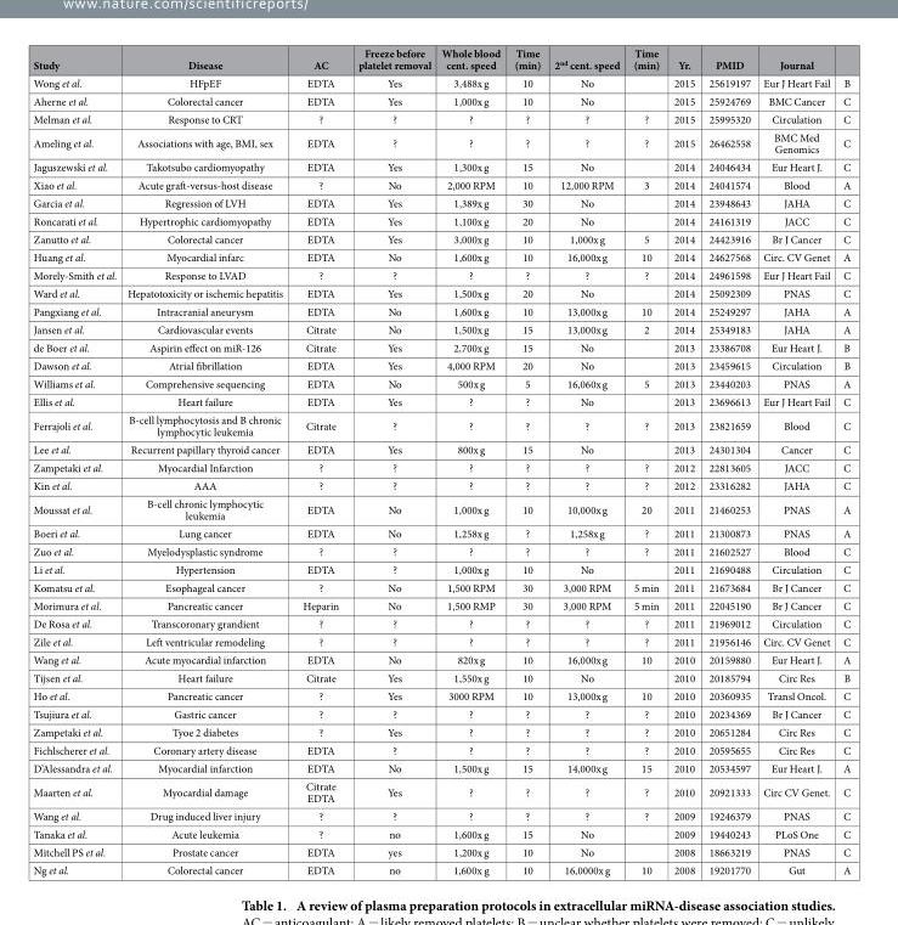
<table><thead><tr><td>Study</td><td>Disease</td><td>AC</td><td>Freeze before platelet removal</td><td>Whole blood cent. speed</td><td>Time (min)</td><td>2<sup>nd</sup> cent. speed</td><td>Time (min)</td><td>Yr.</td><td>PMID</td><td>Journal</td><td></td></tr></thead><tbody><tr><td>Wong et al.</td><td>HFpEF</td><td>EDTA</td><td>Yes</td><td>3,488x g</td><td>10</td><td>No</td><td></td><td>2015</td><td>25619197</td><td>Eur J Heart Fail</td><td>B</td></tr><tr><td>Aherne et al.</td><td>Colorectal cancer</td><td>EDTA</td><td>Yes</td><td>1,000x g</td><td>10</td><td>No</td><td></td><td>2015</td><td>25924769</td><td>BMC Cancer</td><td>C</td></tr><tr><td>Melman et al.</td><td>Response to CRT</td><td>?</td><td>?</td><td>?</td><td>?</td><td>?</td><td>?</td><td>2015</td><td>25995320</td><td>Circulation</td><td>C</td></tr><tr><td>Ameling et al.</td><td>Associations with age, BMI, sex</td><td>EDTA</td><td>?</td><td>?</td><td>?</td><td>?</td><td>?</td><td>2015</td><td>26462558</td><td>BMC Med Genomics</td><td>C</td></tr><tr><td>Jaguszewski et al.</td><td>Takotsubo cardiomyopathy</td><td>EDTA</td><td>Yes</td><td>1,300x g</td><td>15</td><td>No</td><td></td><td>2014</td><td>24046434</td><td>Eur Heart J.</td><td>C</td></tr><tr><td>Xiao et al.</td><td>Acute graft-versus-host disease</td><td>?</td><td>No</td><td>2,000 RPM</td><td>10</td><td>12,000 RPM</td><td>3</td><td>2014</td><td>24041574</td><td>Blood</td><td>A</td></tr><tr><td>Garcia et al.</td><td>Regression of LVH</td><td>EDTA</td><td>Yes</td><td>1,389x g</td><td>30</td><td>No</td><td></td><td>2014</td><td>23948643</td><td>JAHA</td><td>C</td></tr><tr><td>Roncarati et al.</td><td>Hypertrophic cardiomyopathy</td><td>EDTA</td><td>Yes</td><td>1,100x g</td><td>20</td><td>No</td><td></td><td>2014</td><td>24161319</td><td>JACC</td><td>C</td></tr><tr><td>Zanutto et al.</td><td>Colorectal cancer</td><td>EDTA</td><td>Yes</td><td>3,000x g</td><td>10</td><td>1,000x g</td><td>5</td><td>2014</td><td>24423916</td><td>Br J Cancer</td><td>C</td></tr><tr><td>Huang et al.</td><td>Myocardial infarc</td><td>EDTA</td><td>No</td><td>1,600x g</td><td>10</td><td>16,000x g</td><td>10</td><td>2014</td><td>24627568</td><td>Circ. CV Genet</td><td>A</td></tr><tr><td>Morely-Smith et al.</td><td>Response to LVAD</td><td>?</td><td>?</td><td>?</td><td>?</td><td>?</td><td>?</td><td>2014</td><td>24961598</td><td>Eur J Heart Fail</td><td>C</td></tr><tr><td>Ward et al.</td><td>Hepatotoxicity or ischemic hepatitis</td><td>EDTA</td><td>Yes</td><td>1,500x g</td><td>20</td><td>No</td><td></td><td>2014</td><td>25092309</td><td>PNAS</td><td>C</td></tr><tr><td>Pangxiang et al.</td><td>Intracranial aneurysm</td><td>EDTA</td><td>No</td><td>1,600x g</td><td>10</td><td>13,000x g</td><td>10</td><td>2014</td><td>25249297</td><td>JAHA</td><td>A</td></tr><tr><td>Jansen et al.</td><td>Cardiovascular events</td><td>Citrate</td><td>No</td><td>1,500x g</td><td>15</td><td>13,000x g</td><td>2</td><td>2014</td><td>25349183</td><td>JAHA</td><td>A</td></tr><tr><td>de Boer et al.</td><td>Aspirin effect on miR-126</td><td>Citrate</td><td>Yes</td><td>2,700x g</td><td>15</td><td>No</td><td></td><td>2013</td><td>23386708</td><td>Eur Heart J.</td><td>B</td></tr><tr><td>Dawson et al.</td><td>Atrial fibrillation</td><td>EDTA</td><td>Yes</td><td>4,000 RPM</td><td>20</td><td>No</td><td></td><td>2013</td><td>23459615</td><td>Circulation</td><td>B</td></tr><tr><td>Williams et al.</td><td>Comprehensive sequencing</td><td>EDTA</td><td>No</td><td>500x g</td><td>5</td><td>16,060x g</td><td>5</td><td>2013</td><td>23440203</td><td>PNAS</td><td>A</td></tr><tr><td>Ellis et al.</td><td>Heart failure</td><td>EDTA</td><td>Yes</td><td>?</td><td>?</td><td>No</td><td></td><td>2013</td><td>23696613</td><td>Eur J Heart Fail</td><td>C</td></tr><tr><td>Ferrajoli et al.</td><td>B-cell lymphocytosis and B chronic lymphocytic leukemia</td><td>Citrate</td><td>?</td><td>?</td><td>?</td><td>?</td><td>?</td><td>2013</td><td>23821659</td><td>Blood</td><td>C</td></tr><tr><td>Lee et al.</td><td>Recurrent papillary thyroid cancer</td><td>EDTA</td><td>Yes</td><td>800x g</td><td>15</td><td>No</td><td></td><td>2013</td><td>24301304</td><td>Cancer</td><td>C</td></tr><tr><td>Zampetaki et al.</td><td>Myocardial Infarction</td><td>?</td><td>?</td><td>?</td><td>?</td><td>?</td><td>?</td><td>2012</td><td>22813605</td><td>JACC</td><td>C</td></tr><tr><td>Kin et al.</td><td>AAA</td><td>?</td><td>?</td><td>?</td><td>?</td><td>?</td><td>?</td><td>2012</td><td>23316282</td><td>JAHA</td><td>C</td></tr><tr><td>Moussat et al.</td><td>B-cell chronic lymphocytic leukemia</td><td>EDTA</td><td>No</td><td>1,000x g</td><td>10</td><td>10,000x g</td><td>20</td><td>2011</td><td>21460253</td><td>PNAS</td><td>A</td></tr><tr><td>Boeri et al.</td><td>Lung cancer</td><td>EDTA</td><td>No</td><td>1,258x g</td><td>?</td><td>1,258x g</td><td>?</td><td>2011</td><td>21300873</td><td>PNAS</td><td>A</td></tr><tr><td>Zuo et al.</td><td>Myelodysplastic syndrome</td><td>?</td><td>?</td><td>?</td><td>?</td><td>?</td><td>?</td><td>2011</td><td>21602527</td><td>Blood</td><td>C</td></tr><tr><td>Li et al.</td><td>Hypertension</td><td>EDTA</td><td>?</td><td>1,000x g</td><td>10</td><td>No</td><td></td><td>2011</td><td>21690488</td><td>Circulation</td><td>C</td></tr><tr><td>Komatsu et al.</td><td>Esophageal cancer</td><td>?</td><td>No</td><td>1,500 RPM</td><td>30</td><td>3,000 RPM</td><td>5 min</td><td>2011</td><td>21673684</td><td>Br J Cancer</td><td>C</td></tr><tr><td>Morimura et al.</td><td>Pancreatic cancer</td><td>Heparin</td><td>No</td><td>1,500 RMP</td><td>30</td><td>3,000 RPM</td><td>5 min</td><td>2011</td><td>22045190</td><td>Br J Cancer</td><td>C</td></tr><tr><td>De Rosa et al.</td><td>Transcoronary grandient</td><td>?</td><td>?</td><td>?</td><td>?</td><td>?</td><td>?</td><td>2011</td><td>21969012</td><td>Circulation</td><td>C</td></tr><tr><td>Zile et al.</td><td>Left ventricular remodeling</td><td>?</td><td>?</td><td>?</td><td>?</td><td>?</td><td>?</td><td>2011</td><td>21956146</td><td>Circ. CV Genet</td><td>C</td></tr><tr><td>Wang et al.</td><td>Acute myocardial infarction</td><td>EDTA</td><td>No</td><td>820x g</td><td>10</td><td>16,000x g</td><td>10</td><td>2010</td><td>20159880</td><td>Eur Heart J.</td><td>A</td></tr><tr><td>Tijsen et al.</td><td>Heart failure</td><td>Citrate</td><td>Yes</td><td>1,550x g</td><td>10</td><td>No</td><td></td><td>2010</td><td>20185794</td><td>Circ Res</td><td>B</td></tr><tr><td>Ho et al.</td><td>Pancreatic cancer</td><td>?</td><td>Yes</td><td>3000 RPM</td><td>10</td><td>13,000x g</td><td>10</td><td>2010</td><td>20360935</td><td>Transl Oncol.</td><td>C</td></tr><tr><td>Tsujiura et al.</td><td>Gastric cancer</td><td>?</td><td>?</td><td>?</td><td>?</td><td>?</td><td>?</td><td>2010</td><td>20234369</td><td>Br J Cancer</td><td>C</td></tr><tr><td>Zampetaki et al.</td><td>Tyoe 2 diabetes</td><td>?</td><td>Yes</td><td>?</td><td>?</td><td>?</td><td>?</td><td>2010</td><td>20651284</td><td>Circ Res</td><td>C</td></tr><tr><td>Fichlscherer et al.</td><td>Coronary artery disease</td><td>EDTA</td><td>?</td><td>?</td><td>?</td><td>?</td><td>?</td><td>2010</td><td>20595655</td><td>Circ Res</td><td>C</td></tr><tr><td>D’Alessandra et al.</td><td>Myocardial infarction</td><td>EDTA</td><td>No</td><td>1,500x g</td><td>15</td><td>14,000x g</td><td>15</td><td>2010</td><td>20534597</td><td>Eur Heart J.</td><td>A</td></tr><tr><td>Maarten et al.</td><td>Myocardial damage</td><td>Citrate EDTA</td><td>Yes</td><td>?</td><td>?</td><td>?</td><td>?</td><td>2010</td><td>20921333</td><td>Circ CV Genet.</td><td>C</td></tr><tr><td>Wang et al.</td><td>Drug induced liver injury</td><td>?</td><td>?</td><td>?</td><td>?</td><td>?</td><td>?</td><td>2009</td><td>19246379</td><td>PNAS</td><td>C</td></tr><tr><td>Tanaka et al.</td><td>Acute leukemia</td><td>?</td><td>no</td><td>1,600x g</td><td>15</td><td>No</td><td></td><td>2009</td><td>19440243</td><td>PLoS One</td><td>C</td></tr><tr><td>Mitchell PS et al.</td><td>Prostate cancer</td><td>EDTA</td><td>yes</td><td>1,200x g</td><td>10</td><td>No</td><td></td><td>2008</td><td>18663219</td><td>PNAS</td><td>C</td></tr><tr><td>Ng et al.</td><td>Colorectal cancer</td><td>EDTA</td><td>no</td><td>1,600x g</td><td>10</td><td>16,0000x g</td><td>10</td><td>2008</td><td>19201770</td><td>Gut</td><td>A</td></tr></tbody></table>